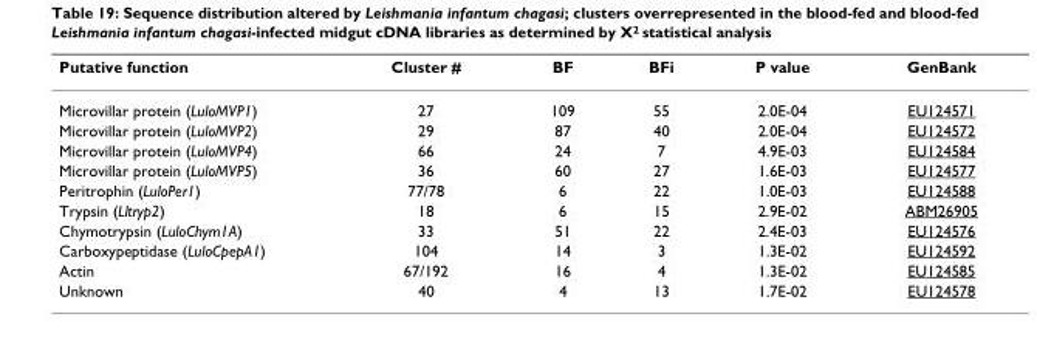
<table><thead><tr><td>Putative function</td><td>Cluster #</td><td>BF</td><td>BFi</td><td>P value</td><td>GenBank</td></tr></thead><tbody><tr><td>Microvillar protein (LuloMVP1)</td><td>27</td><td>109</td><td>55</td><td>2.0E-04</td><td>EU124571</td></tr><tr><td>Microvillar protein (LuloMVP2)</td><td>29</td><td>87</td><td>40</td><td>2.0E-04</td><td>EU124572</td></tr><tr><td>Microvillar protein (LuloMVP4)</td><td>66</td><td>24</td><td>7</td><td>4.9E-03</td><td>EU124584</td></tr><tr><td>Microvillar protein (LuloMVP5)</td><td>36</td><td>60</td><td>27</td><td>1.6E-03</td><td>EU124577</td></tr><tr><td>Peritrophin (LuloPer1)</td><td>77/78</td><td>6</td><td>22</td><td>1.0E-03</td><td>EU124588</td></tr><tr><td>Trypsin (Lltryp2)</td><td>18</td><td>6</td><td>15</td><td>2.9E-02</td><td>ABM26905</td></tr><tr><td>Chymotrypsin (LuloChym1A)</td><td>33</td><td>51</td><td>22</td><td>2.4E-03</td><td>EU124576</td></tr><tr><td>Carboxypeptidase (LuloCpepA1)</td><td>104</td><td>14</td><td>3</td><td>1.3E-02</td><td>EU124592</td></tr><tr><td>Actin</td><td>67/192</td><td>16</td><td>4</td><td>1.3E-02</td><td>EU124585</td></tr><tr><td>Unknown</td><td>40</td><td>4</td><td>13</td><td>1.7E-02</td><td>EU124578</td></tr></tbody></table>